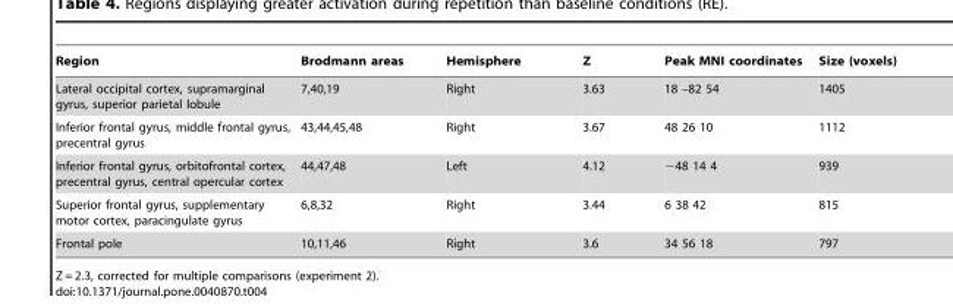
<table><thead><tr><td>Region</td><td>Brodmann areas</td><td>Hemisphere</td><td>Z</td><td>Peak MNI coordinates</td><td>Size (voxels)</td></tr></thead><tbody><tr><td>Lateral occipital cortex, supramarginal gyrus, superior parietal lobule</td><td>7,40,19</td><td>Right</td><td>3.63</td><td>18 –82 54</td><td>1405</td></tr><tr><td>Inferior frontal gyrus, middle frontal gyrus, precentral gyrus</td><td>43,44,45,48</td><td>Right</td><td>3.67</td><td>48 26 10</td><td>1112</td></tr><tr><td>Inferior frontal gyrus, orbitofrontal cortex, precentral gyrus, central opercular cortex</td><td>44,47,48</td><td>Left</td><td>4.12</td><td>−48 14 4</td><td>939</td></tr><tr><td>Superior frontal gyrus, supplementary motor cortex, paracingulate gyrus</td><td>6,8,32</td><td>Right</td><td>3.44</td><td>6 38 42</td><td>815</td></tr><tr><td>Frontal pole</td><td>10,11,46</td><td>Right</td><td>3.6</td><td>34 56 18</td><td>797</td></tr></tbody></table>